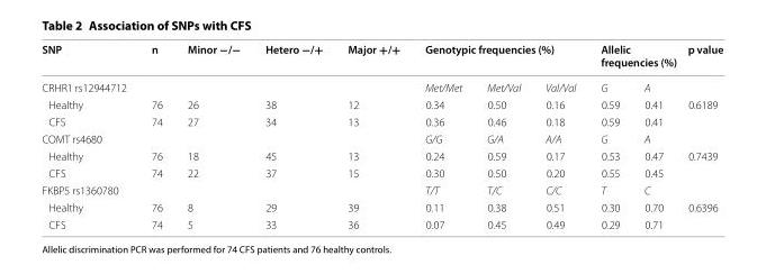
<table><thead><tr><td rowspan="2">SNP CRHR1 rs12944712</td><td rowspan="2">n</td><td rowspan="2">Minor −/−</td><td rowspan="2">Hetero −/+</td><td rowspan="2">Major +/+</td><td colspan="3">Genotypic frequencies (%)</td><td colspan="2">Allelic frequencies (%)</td><td rowspan="2">p value</td></tr><tr><td>Met/Met</td><td>Met/Val</td><td>Val/Val</td><td>G</td><td>A</td></tr></thead><tbody><tr><td>Healthy</td><td>76</td><td>26</td><td>38</td><td>12</td><td>0.34</td><td>0.50</td><td>0.16</td><td>0.59</td><td>0.41</td><td>0.6189</td></tr><tr><td>CFS</td><td>74</td><td>27</td><td>34</td><td>13</td><td>0.36</td><td>0.46</td><td>0.18</td><td>0.59</td><td>0.41</td><td></td></tr><tr><td>COMT rs4680</td><td></td><td></td><td></td><td></td><td>G/G</td><td>G/A</td><td>A/A</td><td>G</td><td>A</td><td></td></tr><tr><td>Healthy</td><td>76</td><td>18</td><td>45</td><td>13</td><td>0.24</td><td>0.59</td><td>0.17</td><td>0.53</td><td>0.47</td><td>0.7439</td></tr><tr><td>CFS</td><td>74</td><td>22</td><td>37</td><td>15</td><td>0.30</td><td>0.50</td><td>0.20</td><td>0.55</td><td>0.45</td><td></td></tr><tr><td>FKBP5 rs1360780</td><td></td><td></td><td></td><td></td><td>T/T</td><td>T/C</td><td>C/C</td><td>T</td><td>C</td><td></td></tr><tr><td>Healthy</td><td>76</td><td>8</td><td>29</td><td>39</td><td>0.11</td><td>0.38</td><td>0.51</td><td>0.30</td><td>0.70</td><td>0.6396</td></tr><tr><td>CFS</td><td>74</td><td>5</td><td>33</td><td>36</td><td>0.07</td><td>0.45</td><td>0.49</td><td>0.29</td><td>0.71</td><td></td></tr></tbody></table>